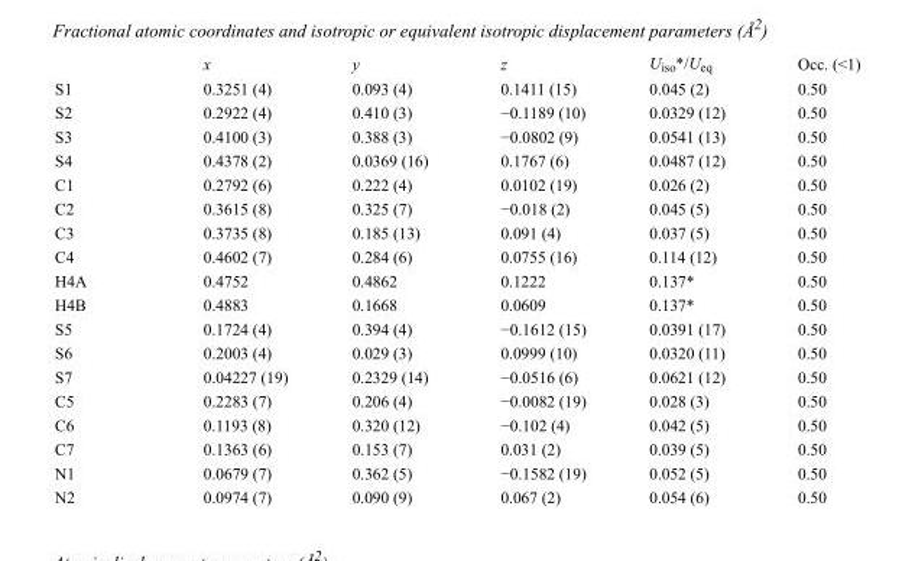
<table><thead><tr><td></td><td>x</td><td>y</td><td>z</td><td>U<sub>iso</sub>*/U<sub>eq</sub></td><td>Occ. (&lt;1)</td></tr></thead><tbody><tr><td>S1</td><td>0.3251 (4)</td><td>0.093 (4)</td><td>0.1411 (15)</td><td>0.045 (2)</td><td>0.50</td></tr><tr><td>S2</td><td>0.2922 (4)</td><td>0.410 (3)</td><td>−0.1189 (10)</td><td>0.0329 (12)</td><td>0.50</td></tr><tr><td>S3</td><td>0.4100 (3)</td><td>0.388 (3)</td><td>−0.0802 (9)</td><td>0.0541 (13)</td><td>0.50</td></tr><tr><td>S4</td><td>0.4378 (2)</td><td>0.0369 (16)</td><td>0.1767 (6)</td><td>0.0487 (12)</td><td>0.50</td></tr><tr><td>C1</td><td>0.2792 (6)</td><td>0.222 (4)</td><td>0.0102 (19)</td><td>0.026 (2)</td><td>0.50</td></tr><tr><td>C2</td><td>0.3615 (8)</td><td>0.325 (7)</td><td>−0.018 (2)</td><td>0.045 (5)</td><td>0.50</td></tr><tr><td>C3</td><td>0.3735 (8)</td><td>0.185 (13)</td><td>0.091 (4)</td><td>0.037 (5)</td><td>0.50</td></tr><tr><td>C4</td><td>0.4602 (7)</td><td>0.284 (6)</td><td>0.0755 (16)</td><td>0.114 (12)</td><td>0.50</td></tr><tr><td>H4A</td><td>0.4752</td><td>0.4862</td><td>0.1222</td><td>0.137*</td><td>0.50</td></tr><tr><td>H4B</td><td>0.4883</td><td>0.1668</td><td>0.0609</td><td>0.137*</td><td>0.50</td></tr><tr><td>S5</td><td>0.1724 (4)</td><td>0.394 (4)</td><td>−0.1612 (15)</td><td>0.0391 (17)</td><td>0.50</td></tr><tr><td>S6</td><td>0.2003 (4)</td><td>0.029 (3)</td><td>0.0999 (10)</td><td>0.0320 (11)</td><td>0.50</td></tr><tr><td>S7</td><td>0.04227 (19)</td><td>0.2329 (14)</td><td>−0.0516 (6)</td><td>0.0621 (12)</td><td>0.50</td></tr><tr><td>C5</td><td>0.2283 (7)</td><td>0.206 (4)</td><td>−0.0082 (19)</td><td>0.028 (3)</td><td>0.50</td></tr><tr><td>C6</td><td>0.1193 (8)</td><td>0.320 (12)</td><td>−0.102 (4)</td><td>0.042 (5)</td><td>0.50</td></tr><tr><td>C7</td><td>0.1363 (6)</td><td>0.153 (7)</td><td>0.031 (2)</td><td>0.039 (5)</td><td>0.50</td></tr><tr><td>N1</td><td>0.0679 (7)</td><td>0.362 (5)</td><td>−0.1582 (19)</td><td>0.052 (5)</td><td>0.50</td></tr><tr><td>N2</td><td>0.0974 (7)</td><td>0.090 (9)</td><td>0.067 (2)</td><td>0.054 (6)</td><td>0.50</td></tr></tbody></table>